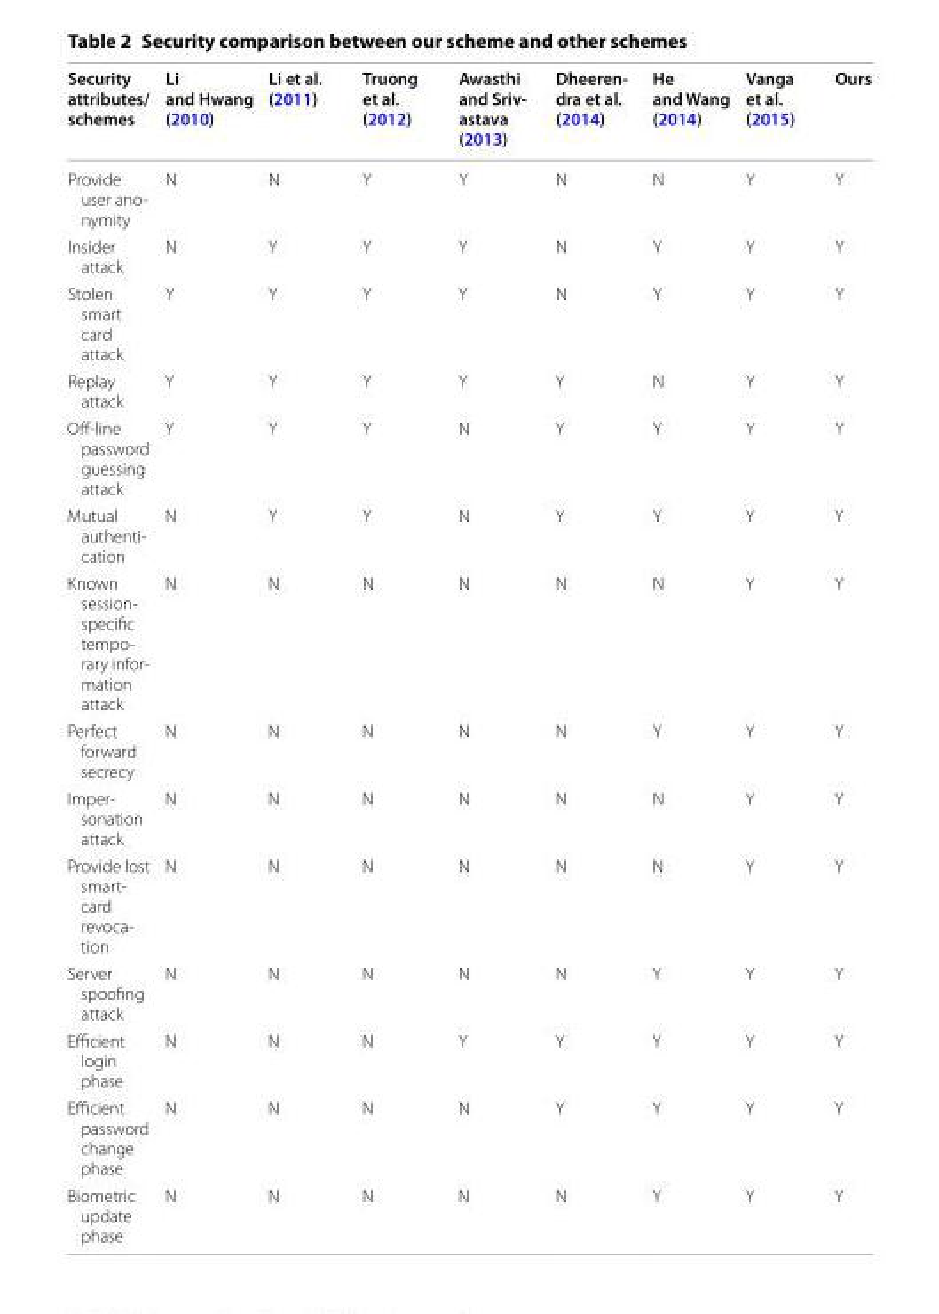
<table><thead><tr><td>Security attributes/ schemes</td><td>Li and Hwang (2010)</td><td>Li et al. (2011)</td><td>Truong et al. (2012)</td><td>Awasthi and Sriv‑ astava (2013)</td><td>Dheeren‑ dra et al. (2014)</td><td>He and Wang (2014)</td><td>Vanga et al. (2015)</td><td>Ours</td></tr></thead><tbody><tr><td>Provide user ano- nymity</td><td>N</td><td>N</td><td>Y</td><td>Y</td><td>N</td><td>N</td><td>Y</td><td>Y</td></tr><tr><td>Insider attack</td><td>N</td><td>Y</td><td>Y</td><td>Y</td><td>N</td><td>Y</td><td>Y</td><td>Y</td></tr><tr><td>Stolen smart card attack</td><td>Y</td><td>Y</td><td>Y</td><td>Y</td><td>N</td><td>Y</td><td>Y</td><td>Y</td></tr><tr><td>Replay attack</td><td>Y</td><td>Y</td><td>Y</td><td>Y</td><td>Y</td><td>N</td><td>Y</td><td>Y</td></tr><tr><td>Off-line password guessing attack</td><td>Y</td><td>Y</td><td>Y</td><td>N</td><td>Y</td><td>Y</td><td>Y</td><td>Y</td></tr><tr><td>Mutual authenti- cation</td><td>N</td><td>Y</td><td>Y</td><td>N</td><td>Y</td><td>Y</td><td>Y</td><td>Y</td></tr><tr><td>Known session- specific tempo- rary infor- mation attack</td><td>N</td><td>N</td><td>N</td><td>N</td><td>N</td><td>N</td><td>Y</td><td>Y</td></tr><tr><td>Perfect forward secrecy</td><td>N</td><td>N</td><td>N</td><td>N</td><td>N</td><td>Y</td><td>Y</td><td>Y</td></tr><tr><td>Imper- sonation attack</td><td>N</td><td>N</td><td>N</td><td>N</td><td>N</td><td>N</td><td>Y</td><td>Y</td></tr><tr><td>Provide lost smart- card revoca- tion</td><td>N</td><td>N</td><td>N</td><td>N</td><td>N</td><td>N</td><td>Y</td><td>Y</td></tr><tr><td>Server spoofing attack</td><td>N</td><td>N</td><td>N</td><td>N</td><td>N</td><td>Y</td><td>Y</td><td>Y</td></tr><tr><td>Efficient login phase</td><td>N</td><td>N</td><td>N</td><td>Y</td><td>Y</td><td>Y</td><td>Y</td><td>Y</td></tr><tr><td>Efficient password change phase</td><td>N</td><td>N</td><td>N</td><td>N</td><td>Y</td><td>Y</td><td>Y</td><td>Y</td></tr><tr><td>Biometric update phase</td><td>N</td><td>N</td><td>N</td><td>N</td><td>N</td><td>Y</td><td>Y</td><td>Y</td></tr></tbody></table>